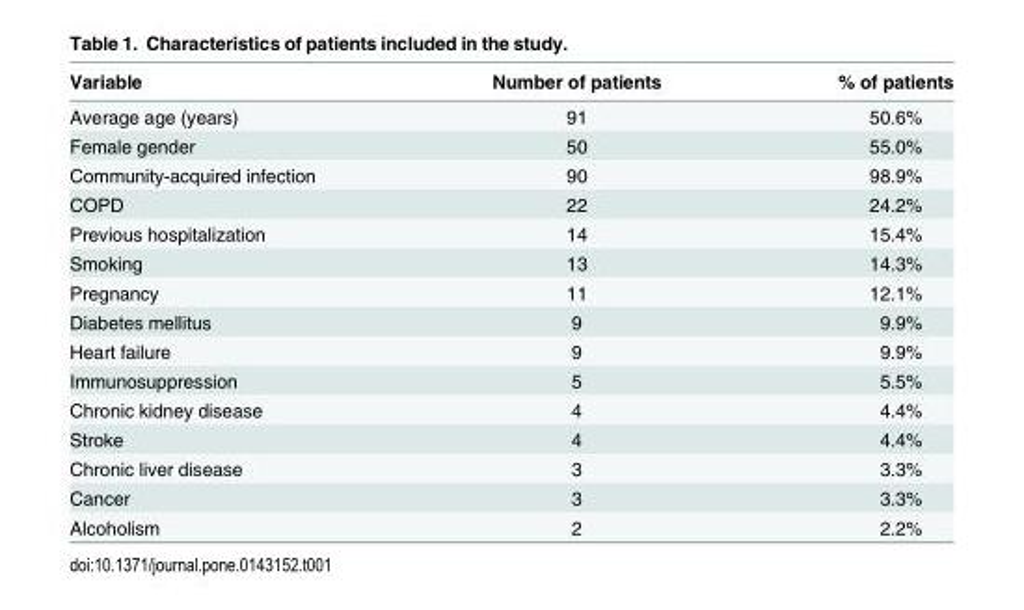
<table><thead><tr><td>Variable</td><td>Number of patients</td><td>% of patients</td></tr></thead><tbody><tr><td>Average age (years)</td><td>91</td><td>50.6%</td></tr><tr><td>Female gender</td><td>50</td><td>55.0%</td></tr><tr><td>Community-acquired infection</td><td>90</td><td>98.9%</td></tr><tr><td>COPD</td><td>22</td><td>24.2%</td></tr><tr><td>Previous hospitalization</td><td>14</td><td>15.4%</td></tr><tr><td>Smoking</td><td>13</td><td>14.3%</td></tr><tr><td>Pregnancy</td><td>11</td><td>12.1%</td></tr><tr><td>Diabetes mellitus</td><td>9</td><td>9.9%</td></tr><tr><td>Heart failure</td><td>9</td><td>9.9%</td></tr><tr><td>Immunosuppression</td><td>5</td><td>5.5%</td></tr><tr><td>Chronic kidney disease</td><td>4</td><td>4.4%</td></tr><tr><td>Stroke</td><td>4</td><td>4.4%</td></tr><tr><td>Chronic liver disease</td><td>3</td><td>3.3%</td></tr><tr><td>Cancer</td><td>3</td><td>3.3%</td></tr><tr><td>Alcoholism</td><td>2</td><td>2.2%</td></tr></tbody></table>